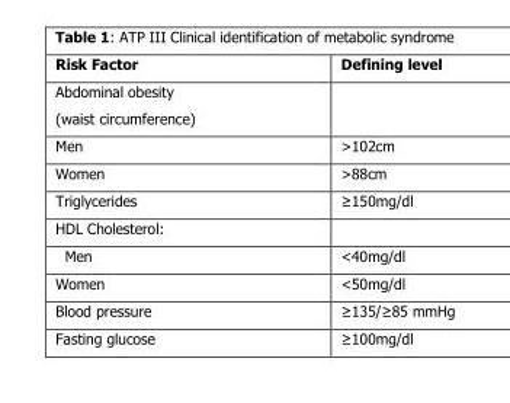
<table><thead><tr><td>Risk Factor</td><td>Defining level</td></tr></thead><tbody><tr><td colspan="2">Abdominal obesity (waist circumference)</td></tr><tr><td>Men</td><td>&gt;102cm</td></tr><tr><td>Women</td><td>&gt;88cm</td></tr><tr><td>Triglycerides</td><td>≥150mg/dl</td></tr><tr><td colspan="2">HDL Cholesterol:</td></tr><tr><td>Men</td><td>&lt;40mg/dl</td></tr><tr><td>Women</td><td>&lt;50mg/dl</td></tr><tr><td>Blood pressure</td><td>≥135/≥85 mmHg</td></tr><tr><td>Fasting glucose</td><td>≥100mg/dl</td></tr></tbody></table>